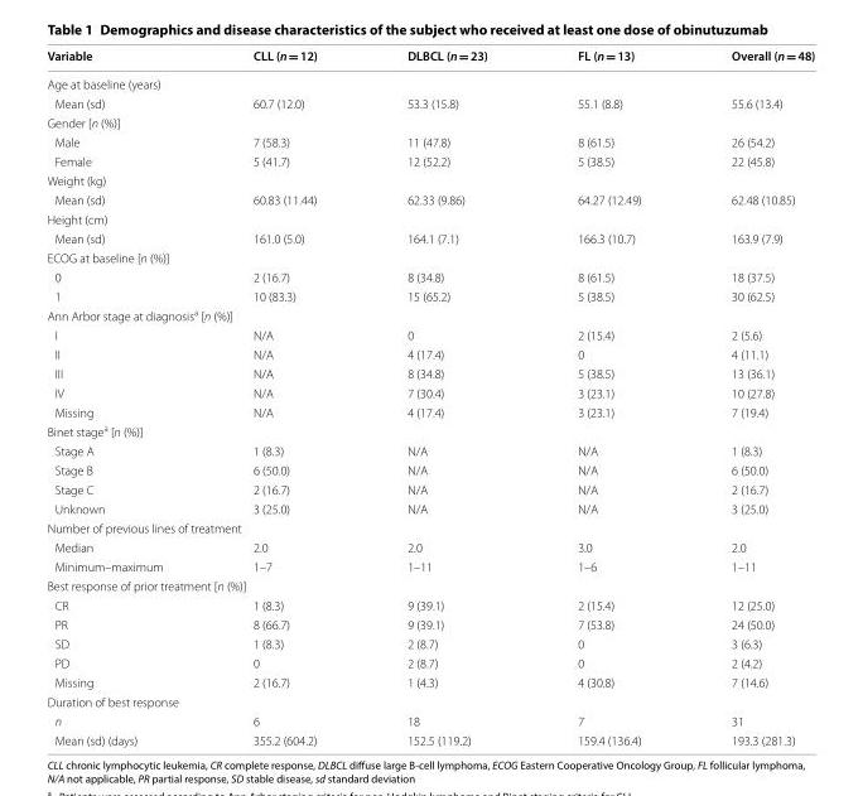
<table><thead><tr><td>Variable</td><td>CLL (n = 12)</td><td>DLBCL (n = 23)</td><td>FL (n = 13)</td><td>Overall (n = 48)</td></tr></thead><tbody><tr><td colspan="5">Age at baseline (years)</td></tr><tr><td>Mean (sd)</td><td>60.7 (12.0)</td><td>53.3 (15.8)</td><td>55.1 (8.8)</td><td>55.6 (13.4)</td></tr><tr><td colspan="5">Gender [n (%)]</td></tr><tr><td>Male</td><td>7 (58.3)</td><td>11 (47.8)</td><td>8 (61.5)</td><td>26 (54.2)</td></tr><tr><td>Female</td><td>5 (41.7)</td><td>12 (52.2)</td><td>5 (38.5)</td><td>22 (45.8)</td></tr><tr><td colspan="5">Weight (kg)</td></tr><tr><td>Mean (sd)</td><td>60.83 (11.44)</td><td>62.33 (9.86)</td><td>64.27 (12.49)</td><td>62.48 (10.85)</td></tr><tr><td colspan="5">Height (cm)</td></tr><tr><td>Mean (sd)</td><td>161.0 (5.0)</td><td>164.1 (7.1)</td><td>166.3 (10.7)</td><td>163.9 (7.9)</td></tr><tr><td colspan="5">ECOG at baseline [n (%)]</td></tr><tr><td>0</td><td>2 (16.7)</td><td>8 (34.8)</td><td>8 (61.5)</td><td>18 (37.5)</td></tr><tr><td>1</td><td>10 (83.3)</td><td>15 (65.2)</td><td>5 (38.5)</td><td>30 (62.5)</td></tr><tr><td colspan="5">Ann Arbor stage at diagnosis<sup>a</sup> [n (%)]</td></tr><tr><td>I</td><td>N/A</td><td>0</td><td>2 (15.4)</td><td>2 (5.6)</td></tr><tr><td>II</td><td>N/A</td><td>4 (17.4)</td><td>0</td><td>4 (11.1)</td></tr><tr><td>III</td><td>N/A</td><td>8 (34.8)</td><td>5 (38.5)</td><td>13 (36.1)</td></tr><tr><td>IV</td><td>N/A</td><td>7 (30.4)</td><td>3 (23.1)</td><td>10 (27.8)</td></tr><tr><td>Missing</td><td>N/A</td><td>4 (17.4)</td><td>3 (23.1)</td><td>7 (19.4)</td></tr><tr><td colspan="5">Binet stage<sup>a</sup> [n (%)]</td></tr><tr><td>Stage A</td><td>1 (8.3)</td><td>N/A</td><td>N/A</td><td>1 (8.3)</td></tr><tr><td>Stage B</td><td>6 (50.0)</td><td>N/A</td><td>N/A</td><td>6 (50.0)</td></tr><tr><td>Stage C</td><td>2 (16.7)</td><td>N/A</td><td>N/A</td><td>2 (16.7)</td></tr><tr><td>Unknown</td><td>3 (25.0)</td><td>N/A</td><td>N/A</td><td>3 (25.0)</td></tr><tr><td colspan="5">Number of previous lines of treatment</td></tr><tr><td>Median</td><td>2.0</td><td>2.0</td><td>3.0</td><td>2.0</td></tr><tr><td>Minimum–maximum</td><td>1–7</td><td>1–11</td><td>1–6</td><td>1–11</td></tr><tr><td colspan="5">Best response of prior treatment [n (%)]</td></tr><tr><td>CR</td><td>1 (8.3)</td><td>9 (39.1)</td><td>2 (15.4)</td><td>12 (25.0)</td></tr><tr><td>PR</td><td>8 (66.7)</td><td>9 (39.1)</td><td>7 (53.8)</td><td>24 (50.0)</td></tr><tr><td>SD</td><td>1 (8.3)</td><td>2 (8.7)</td><td>0</td><td>3 (6.3)</td></tr><tr><td>PD</td><td>0</td><td>2 (8.7)</td><td>0</td><td>2 (4.2)</td></tr><tr><td>Missing</td><td>2 (16.7)</td><td>1 (4.3)</td><td>4 (30.8)</td><td>7 (14.6)</td></tr><tr><td colspan="5">Duration of best response</td></tr><tr><td>n</td><td>6</td><td>18</td><td>7</td><td>31</td></tr><tr><td>Mean (sd) (days)</td><td>355.2 (604.2)</td><td>152.5 (119.2)</td><td>159.4 (136.4)</td><td>193.3 (281.3)</td></tr></tbody></table>